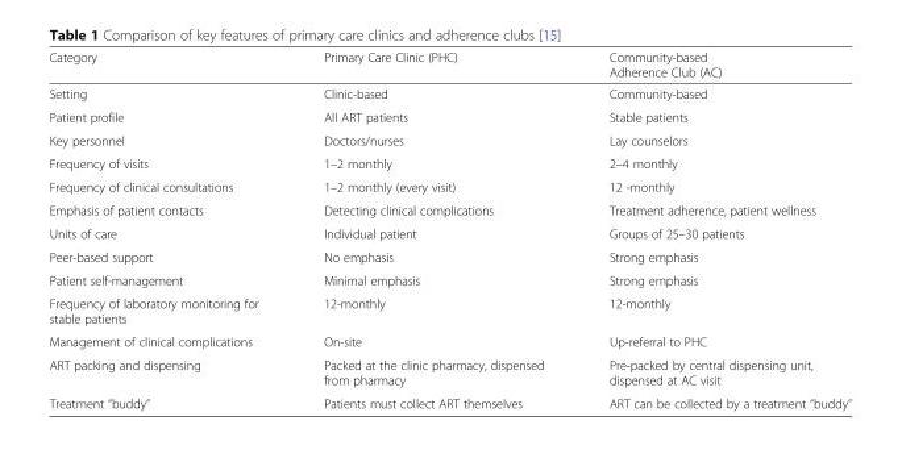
<table><thead><tr><td>Category</td><td>Primary Care Clinic (PHC)</td><td>Community-based Adherence Club (AC)</td></tr></thead><tbody><tr><td>Setting</td><td>Clinic-based</td><td>Community-based</td></tr><tr><td>Patient profile</td><td>All ART patients</td><td>Stable patients</td></tr><tr><td>Key personnel</td><td>Doctors/nurses</td><td>Lay counselors</td></tr><tr><td>Frequency of visits</td><td>1–2 monthly</td><td>2–4 monthly</td></tr><tr><td>Frequency of clinical consultations</td><td>1–2 monthly (every visit)</td><td>12 -monthly</td></tr><tr><td>Emphasis of patient contacts</td><td>Detecting clinical complications</td><td>Treatment adherence, patient wellness</td></tr><tr><td>Units of care</td><td>Individual patient</td><td>Groups of 25–30 patients</td></tr><tr><td>Peer-based support</td><td>No emphasis</td><td>Strong emphasis</td></tr><tr><td>Patient self-management</td><td>Minimal emphasis</td><td>Strong emphasis</td></tr><tr><td>Frequency of laboratory monitoring for stable patients</td><td>12-monthly</td><td>12-monthly</td></tr><tr><td>Management of clinical complications</td><td>On-site</td><td>Up-referral to PHC</td></tr><tr><td>ART packing and dispensing</td><td>Packed at the clinic pharmacy, dispensed from pharmacy</td><td>Pre-packed by central dispensing unit, dispensed at AC visit</td></tr><tr><td>Treatment “buddy”</td><td>Patients must collect ART themselves</td><td>ART can be collected by a treatment “buddy”</td></tr></tbody></table>